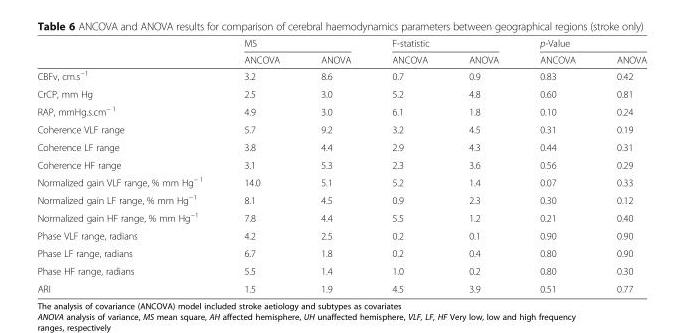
<table><thead><tr><td rowspan="2"></td><td colspan="2">MS</td><td colspan="2">F-statistic</td><td colspan="2">p-Value</td></tr><tr><td>ANCOVA</td><td>ANOVA</td><td>ANCOVA</td><td>ANOVA</td><td>ANCOVA</td><td>ANOVA</td></tr></thead><tbody><tr><td>CBFv, cm.s<sup>−1</sup></td><td>3.2</td><td>8.6</td><td>0.7</td><td>0.9</td><td>0.83</td><td>0.42</td></tr><tr><td>CrCP, mm Hg</td><td>2.5</td><td>3.0</td><td>5.2</td><td>4.8</td><td>0.60</td><td>0.81</td></tr><tr><td>RAP, mmHg.s.cm<sup>− 1</sup></td><td>4.9</td><td>3.0</td><td>6.1</td><td>1.8</td><td>0.10</td><td>0.24</td></tr><tr><td>Coherence VLF range</td><td>5.7</td><td>9.2</td><td>3.2</td><td>4.5</td><td>0.31</td><td>0.19</td></tr><tr><td>Coherence LF range</td><td>3.8</td><td>4.4</td><td>2.9</td><td>4.3</td><td>0.44</td><td>0.31</td></tr><tr><td>Coherence HF range</td><td>3.1</td><td>5.3</td><td>2.3</td><td>3.6</td><td>0.56</td><td>0.29</td></tr><tr><td>Normalized gain VLF range, % mm Hg<sup>− 1</sup></td><td>14.0</td><td>5.1</td><td>5.2</td><td>1.4</td><td>0.07</td><td>0.33</td></tr><tr><td>Normalized gain LF range, % mm Hg<sup>−1</sup></td><td>8.1</td><td>4.5</td><td>0.9</td><td>2.3</td><td>0.30</td><td>0.12</td></tr><tr><td>Normalized gain HF range, % mm Hg<sup>−1</sup></td><td>7.8</td><td>4.4</td><td>5.5</td><td>1.2</td><td>0.21</td><td>0.40</td></tr><tr><td>Phase VLF range, radians</td><td>4.2</td><td>2.5</td><td>0.2</td><td>0.1</td><td>0.90</td><td>0.90</td></tr><tr><td>Phase LF range, radians</td><td>6.7</td><td>1.8</td><td>0.2</td><td>0.4</td><td>0.80</td><td>0.90</td></tr><tr><td>Phase HF range, radians</td><td>5.5</td><td>1.4</td><td>1.0</td><td>0.2</td><td>0.80</td><td>0.30</td></tr><tr><td>ARI</td><td>1.5</td><td>1.9</td><td>4.5</td><td>3.9</td><td>0.51</td><td>0.77</td></tr></tbody></table>